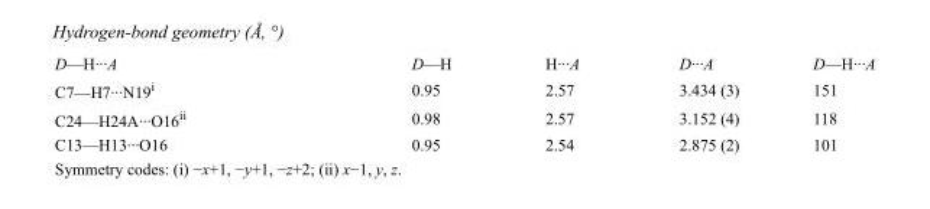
<table><tbody><tr><td>D—H···A</td><td>D—H</td><td>H···A</td><td>D···A</td><td>D—H···A</td></tr><tr><td>C7—H7···N19<sup>i</sup></td><td>0.95</td><td>2.57</td><td>3.434 (3)</td><td>151</td></tr><tr><td>C24—H24A···O16<sup>ii</sup></td><td>0.98</td><td>2.57</td><td>3.152 (4)</td><td>118</td></tr><tr><td>C13—H13···O16</td><td>0.95</td><td>2.54</td><td>2.875 (2)</td><td>101</td></tr></tbody></table>